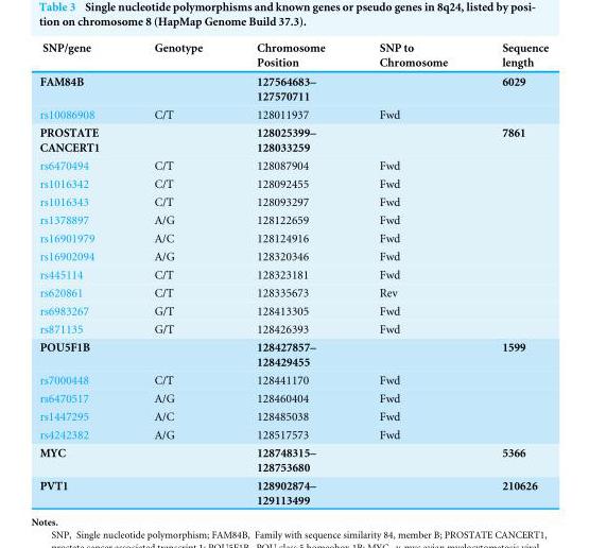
<table><thead><tr><td>SNP/gene</td><td>Genotype</td><td>Chromosome Position</td><td>SNP to Chromosome</td><td>Sequence length</td></tr></thead><tbody><tr><td>FAM84B</td><td></td><td>127564683– 127570711</td><td></td><td>6029</td></tr><tr><td>rs10086908</td><td>C/T</td><td>128011937</td><td>Fwd</td><td></td></tr><tr><td>PROSTATE CANCERT1</td><td></td><td>128025399– 128033259</td><td></td><td>7861</td></tr><tr><td>rs6470494</td><td>C/T</td><td>128087904</td><td>Fwd</td><td></td></tr><tr><td>rs1016342</td><td>C/T</td><td>128092455</td><td>Fwd</td><td></td></tr><tr><td>rs1016343</td><td>C/T</td><td>128093297</td><td>Fwd</td><td></td></tr><tr><td>rs1378897</td><td>A/G</td><td>128122659</td><td>Fwd</td><td></td></tr><tr><td>rs16901979</td><td>A/C</td><td>128124916</td><td>Fwd</td><td></td></tr><tr><td>rs16902094</td><td>A/G</td><td>128320346</td><td>Fwd</td><td></td></tr><tr><td>rs445114</td><td>C/T</td><td>128323181</td><td>Fwd</td><td></td></tr><tr><td>rs620861</td><td>C/T</td><td>128335673</td><td>Rev</td><td></td></tr><tr><td>rs6983267</td><td>G/T</td><td>128413305</td><td>Fwd</td><td></td></tr><tr><td>rs871135</td><td>G/T</td><td>128426393</td><td>Fwd</td><td></td></tr><tr><td>POU5F1B</td><td></td><td>128427857– 128429455</td><td></td><td>1599</td></tr><tr><td>rs7000448</td><td>C/T</td><td>128441170</td><td>Fwd</td><td></td></tr><tr><td>rs6470517</td><td>A/G</td><td>128460404</td><td>Fwd</td><td></td></tr><tr><td>rs1447295</td><td>A/C</td><td>128485038</td><td>Fwd</td><td></td></tr><tr><td>rs4242382</td><td>A/G</td><td>128517573</td><td>Fwd</td><td></td></tr><tr><td>MYC</td><td></td><td>128748315– 128753680</td><td></td><td>5366</td></tr><tr><td>PVT1</td><td></td><td>128902874– 129113499</td><td></td><td>210626</td></tr></tbody></table>